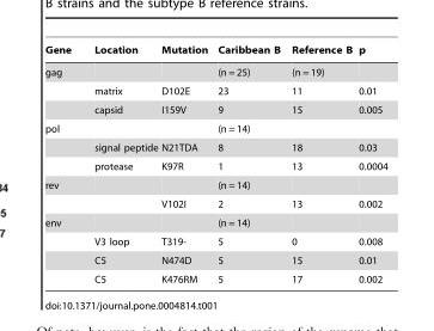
<table><thead><tr><td>Gene</td><td>Location</td><td>Mutation</td><td>Caribbean B</td><td>Reference B</td><td>p</td></tr></thead><tbody><tr><td rowspan="3">gag</td><td></td><td></td><td>(n = 25)</td><td>(n = 19)</td><td></td></tr><tr><td>matrix</td><td>D102E</td><td>23</td><td>11</td><td>0.01</td></tr><tr><td>capsid</td><td>I159V</td><td>9</td><td>15</td><td>0.005</td></tr><tr><td rowspan="3">pol</td><td></td><td></td><td>(n = 14)</td><td></td><td></td></tr><tr><td>signal peptide</td><td>N21TDA</td><td>8</td><td>18</td><td>0.03</td></tr><tr><td>protease</td><td>K97R</td><td>1</td><td>13</td><td>0.0004</td></tr><tr><td rowspan="2">rev</td><td></td><td></td><td>(n = 14)</td><td></td><td></td></tr><tr><td></td><td>V102I</td><td>2</td><td>13</td><td>0.002</td></tr><tr><td rowspan="4">env</td><td></td><td></td><td>(n = 14)</td><td></td><td></td></tr><tr><td>V3 loop</td><td>T319-</td><td>5</td><td>0</td><td>0.008</td></tr><tr><td>C5</td><td>N474D</td><td>5</td><td>15</td><td>0.01</td></tr><tr><td>C5</td><td>K476RM</td><td>5</td><td>17</td><td>0.002</td></tr></tbody></table>